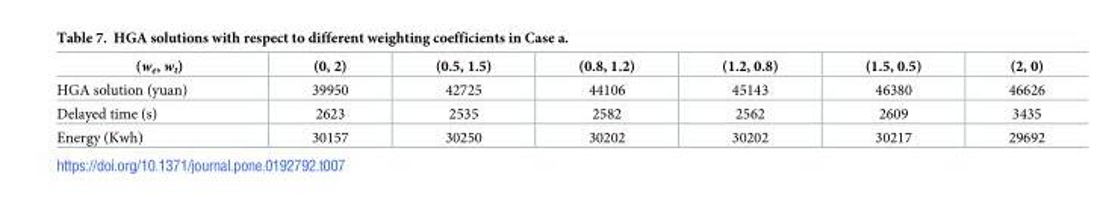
<table><thead><tr><td>(w<sub>e</sub>, w<sub>t</sub>)</td><td>(0, 2)</td><td>(0.5, 1.5)</td><td>(0.8, 1.2)</td><td>(1.2, 0.8)</td><td>(1.5, 0.5)</td><td>(2, 0)</td></tr></thead><tbody><tr><td>HGA solution (yuan)</td><td>39950</td><td>42725</td><td>44106</td><td>45143</td><td>46380</td><td>46626</td></tr><tr><td>Delayed time (s)</td><td>2623</td><td>2535</td><td>2582</td><td>2562</td><td>2609</td><td>3435</td></tr><tr><td>Energy (Kwh)</td><td>30157</td><td>30250</td><td>30202</td><td>30202</td><td>30217</td><td>29692</td></tr></tbody></table>